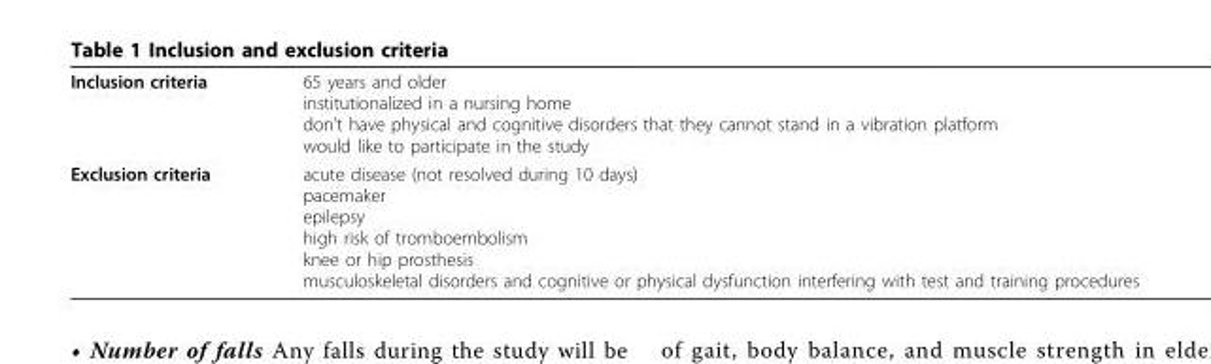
<table><tbody><tr><td>Inclusion criteria</td><td>65 years and older institutionalized in a nursing home don’t have physical and cognitive disorders that they cannot stand in a vibration platform would like to participate in the study</td></tr><tr><td>Exclusion criteria</td><td>acute disease (not resolved during 10 days) pacemaker epilepsy high risk of tromboembolism knee or hip prosthesis musculoskeletal disorders and cognitive or physical dysfunction interfering with test and training procedures</td></tr></tbody></table>